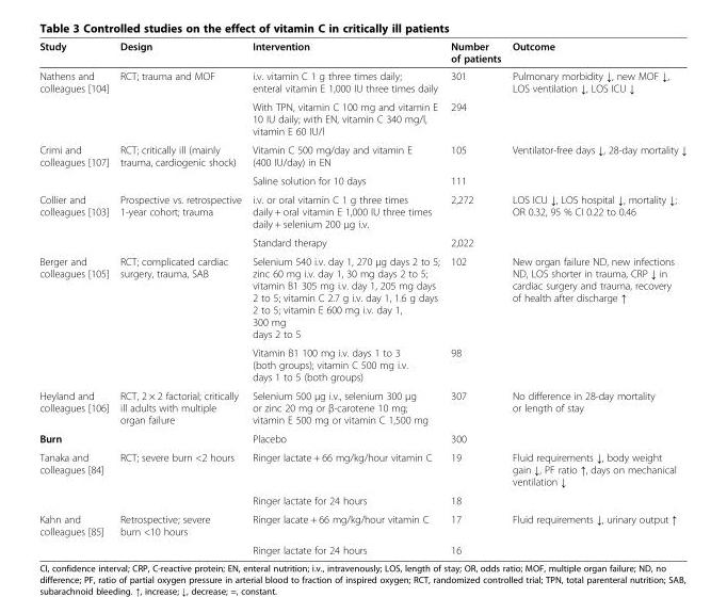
<table><thead><tr><td>Study</td><td>Design</td><td>Intervention</td><td>Number of patients</td><td>Outcome</td></tr></thead><tbody><tr><td rowspan="2">Nathens and colleagues [104]</td><td>RCT; trauma and MOF</td><td>i.v. vitamin C 1 g three times daily; enteral vitamin E 1,000 IU three times daily</td><td>301</td><td>Pulmonary morbidity ↓, new MOF ↓, LOS ventilation ↓, LOS ICU ↓</td></tr><tr><td></td><td>With TPN, vitamin C 100 mg and vitamin E 10 IU daily; with EN, vitamin C 340 mg/l, vitamin E 60 IU/l</td><td>294</td><td></td></tr><tr><td rowspan="2">Crimi and colleagues [107]</td><td>RCT; critically ill (mainly trauma, cardiogenic shock)</td><td>Vitamin C 500 mg/day and vitamin E (400 IU/day) in EN</td><td>105</td><td>Ventilator-free days ↓, 28-day mortality ↓</td></tr><tr><td></td><td>Saline solution for 10 days</td><td>111</td><td></td></tr><tr><td rowspan="2">Collier and colleagues [103]</td><td>Prospective vs. retrospective 1-year cohort; trauma</td><td>i.v. or oral vitamin C 1 g three times daily + oral vitamin E 1,000 IU three times daily + selenium 200 μg i.v.</td><td>2,272</td><td>LOS ICU ↓, LOS hospital ↓, mortality ↓; OR 0.32, 95 % CI 0.22 to 0.46</td></tr><tr><td></td><td>Standard therapy</td><td>2,022</td><td></td></tr><tr><td rowspan="2">Berger and colleagues [105]</td><td>RCT; complicated cardiac surgery, trauma, SAB</td><td>Selenium 540 i.v. day 1, 270 μg days 2 to 5; zinc 60 mg i.v. day 1, 30 mg days 2 to 5; vitamin B1 305 mg i.v. day 1, 205 mg days 2 to 5; vitamin C 2.7 g i.v. day 1, 1.6 g days 2 to 5; vitamin E 600 mg i.v. day 1, 300 mg days 2 to 5</td><td>102</td><td>New organ failure ND, new infections ND, LOS shorter in trauma, CRP ↓ in cardiac surgery and trauma, recovery of health after discharge ↑</td></tr><tr><td></td><td>Vitamin B1 100 mg i.v. days 1 to 3 (both groups); vitamin C 500 mg i.v. days 1 to 5 (both groups)</td><td>98</td><td></td></tr><tr><td>Heyland and colleagues [106]</td><td>RCT, 2 × 2 factorial; critically ill adults with multiple organ failure</td><td>Selenium 500 μg i.v., selenium 300 μg or zinc 20 mg or β-carotene 10 mg; vitamin E 500 mg or vitamin C 1,500 mg</td><td>307</td><td>No difference in 28-day mortality or length of stay</td></tr><tr><td>Burn</td><td></td><td>Placebo</td><td>300</td><td></td></tr><tr><td rowspan="2">Tanaka and colleagues [84]</td><td>RCT; severe burn &lt;2 hours</td><td>Ringer lactate + 66 mg/kg/hour vitamin C</td><td>19</td><td>Fluid requirements ↓, body weight gain ↓, PF ratio ↑, days on mechanical ventilation ↓</td></tr><tr><td></td><td>Ringer lactate for 24 hours</td><td>18</td><td></td></tr><tr><td rowspan="2">Kahn and colleagues [85]</td><td>Retrospective; severe burn &lt;10 hours</td><td>Ringer lacate + 66 mg/kg/hour vitamin C</td><td>17</td><td>Fluid requirements ↓, urinary output ↑</td></tr><tr><td></td><td>Ringer lactate for 24 hours</td><td>16</td><td></td></tr></tbody></table>